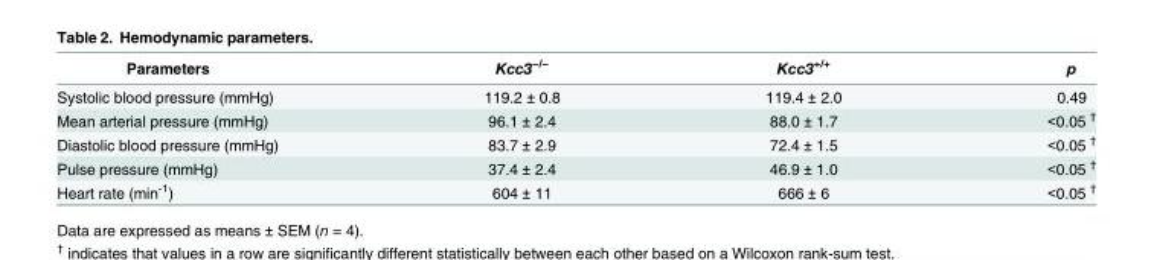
<table><thead><tr><td>Parameters</td><td>Kcc3<sup>−/−</sup></td><td>Kcc3<sup>+/+</sup></td><td>p</td></tr></thead><tbody><tr><td>Systolic blood pressure (mmHg)</td><td>119.2 ± 0.8</td><td>119.4 ± 2.0</td><td>0.49</td></tr><tr><td>Mean arterial pressure (mmHg)</td><td>96.1 ± 2.4</td><td>88.0 ± 1.7</td><td>&lt;0.05 <sup>†</sup></td></tr><tr><td>Diastolic blood pressure (mmHg)</td><td>83.7 ± 2.9</td><td>72.4 ± 1.5</td><td>&lt;0.05 <sup>†</sup></td></tr><tr><td>Pulse pressure (mmHg)</td><td>37.4 ± 2.4</td><td>46.9 ± 1.0</td><td>&lt;0.05 <sup>†</sup></td></tr><tr><td>Heart rate (min<sup>-1</sup>)</td><td>604 ± 11</td><td>666 ± 6</td><td>&lt;0.05 <sup>†</sup></td></tr></tbody></table>